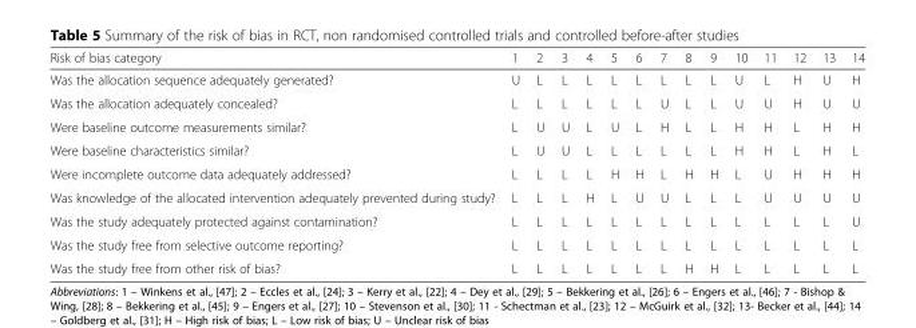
<table><thead><tr><td>Risk of bias category</td><td>1</td><td>2</td><td>3</td><td>4</td><td>5</td><td>6</td><td>7</td><td>8</td><td>9</td><td>10</td><td>11</td><td>12</td><td>13</td><td>14</td></tr></thead><tbody><tr><td>Was the allocation sequence adequately generated?</td><td>U</td><td>L</td><td>L</td><td>L</td><td>L</td><td>L</td><td>L</td><td>L</td><td>L</td><td>U</td><td>L</td><td>H</td><td>U</td><td>H</td></tr><tr><td>Was the allocation adequately concealed?</td><td>L</td><td>L</td><td>L</td><td>L</td><td>L</td><td>L</td><td>U</td><td>L</td><td>L</td><td>U</td><td>U</td><td>H</td><td>U</td><td>U</td></tr><tr><td>Were baseline outcome measurements similar?</td><td>L</td><td>U</td><td>U</td><td>L</td><td>U</td><td>L</td><td>H</td><td>L</td><td>L</td><td>H</td><td>H</td><td>L</td><td>H</td><td>H</td></tr><tr><td>Were baseline characteristics similar?</td><td>L</td><td>U</td><td>U</td><td>L</td><td>L</td><td>L</td><td>L</td><td>L</td><td>L</td><td>H</td><td>H</td><td>L</td><td>H</td><td>L</td></tr><tr><td>Were incomplete outcome data adequately addressed?</td><td>L</td><td>L</td><td>L</td><td>L</td><td>H</td><td>H</td><td>L</td><td>H</td><td>H</td><td>L</td><td>U</td><td>H</td><td>H</td><td>H</td></tr><tr><td>Was knowledge of the allocated intervention adequately prevented during study?</td><td>L</td><td>L</td><td>L</td><td>H</td><td>L</td><td>U</td><td>U</td><td>L</td><td>L</td><td>L</td><td>U</td><td>U</td><td>U</td><td>U</td></tr><tr><td>Was the study adequately protected against contamination?</td><td>L</td><td>L</td><td>L</td><td>L</td><td>L</td><td>L</td><td>L</td><td>L</td><td>L</td><td>L</td><td>L</td><td>L</td><td>L</td><td>U</td></tr><tr><td>Was the study free from selective outcome reporting?</td><td>L</td><td>L</td><td>L</td><td>L</td><td>L</td><td>L</td><td>L</td><td>L</td><td>L</td><td>L</td><td>L</td><td>L</td><td>L</td><td>L</td></tr><tr><td>Was the study free from other risk of bias?</td><td>L</td><td>L</td><td>L</td><td>L</td><td>L</td><td>L</td><td>L</td><td>H</td><td>H</td><td>L</td><td>L</td><td>L</td><td>L</td><td>L</td></tr></tbody></table>